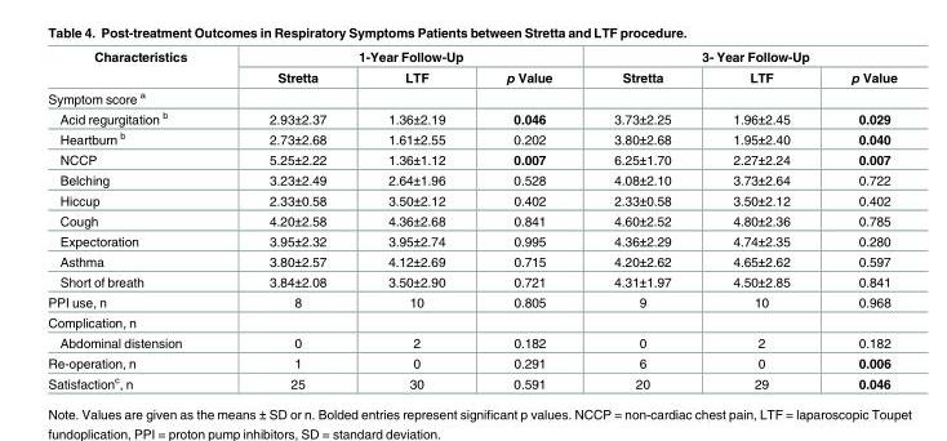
<table><thead><tr><td rowspan="2">Characteristics</td><td colspan="3">1-Year Follow-Up</td><td colspan="3">3- Year Follow-Up</td></tr><tr><td>Stretta</td><td>LTF</td><td>p Value</td><td>Stretta</td><td>LTF</td><td>p Value</td></tr></thead><tbody><tr><td colspan="7">Symptom score <sup>a</sup></td></tr><tr><td>Acid regurgitation <sup>b</sup></td><td>2.93±2.37</td><td>1.36±2.19</td><td>0.046</td><td>3.73±2.25</td><td>1.96±2.45</td><td>0.029</td></tr><tr><td>Heartburn <sup>b</sup></td><td>2.73±2.68</td><td>1.61±2.55</td><td>0.202</td><td>3.80±2.68</td><td>1.95±2.40</td><td>0.040</td></tr><tr><td>NCCP</td><td>5.25±2.22</td><td>1.36±1.12</td><td>0.007</td><td>6.25±1.70</td><td>2.27±2.24</td><td>0.007</td></tr><tr><td>Belching</td><td>3.23±2.49</td><td>2.64±1.96</td><td>0.528</td><td>4.08±2.10</td><td>3.73±2.64</td><td>0.722</td></tr><tr><td>Hiccup</td><td>2.33±0.58</td><td>3.50±2.12</td><td>0.402</td><td>2.33±0.58</td><td>3.50±2.12</td><td>0.402</td></tr><tr><td>Cough</td><td>4.20±2.58</td><td>4.36±2.68</td><td>0.841</td><td>4.60±2.52</td><td>4.80±2.36</td><td>0.785</td></tr><tr><td>Expectoration</td><td>3.95±2.32</td><td>3.95±2.74</td><td>0.995</td><td>4.36±2.29</td><td>4.74±2.35</td><td>0.280</td></tr><tr><td>Asthma</td><td>3.80±2.57</td><td>4.12±2.69</td><td>0.715</td><td>4.20±2.62</td><td>4.65±2.62</td><td>0.597</td></tr><tr><td>Short of breath</td><td>3.84±2.08</td><td>3.50±2.90</td><td>0.721</td><td>4.31±1.97</td><td>4.50±2.85</td><td>0.841</td></tr><tr><td>PPI use, n</td><td>8</td><td>10</td><td>0.805</td><td>9</td><td>10</td><td>0.968</td></tr><tr><td colspan="7">Complication, n</td></tr><tr><td>Abdominal distension</td><td>0</td><td>2</td><td>0.182</td><td>0</td><td>2</td><td>0.182</td></tr><tr><td>Re-operation, n</td><td>1</td><td>0</td><td>0.291</td><td>6</td><td>0</td><td>0.006</td></tr><tr><td>Satisfaction<sup>c</sup>, n</td><td>25</td><td>30</td><td>0.591</td><td>20</td><td>29</td><td>0.046</td></tr></tbody></table>